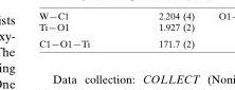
<table><tbody><tr><td>C1—O1—Ti</td><td>171.7 (2)</td></tr></tbody></table>